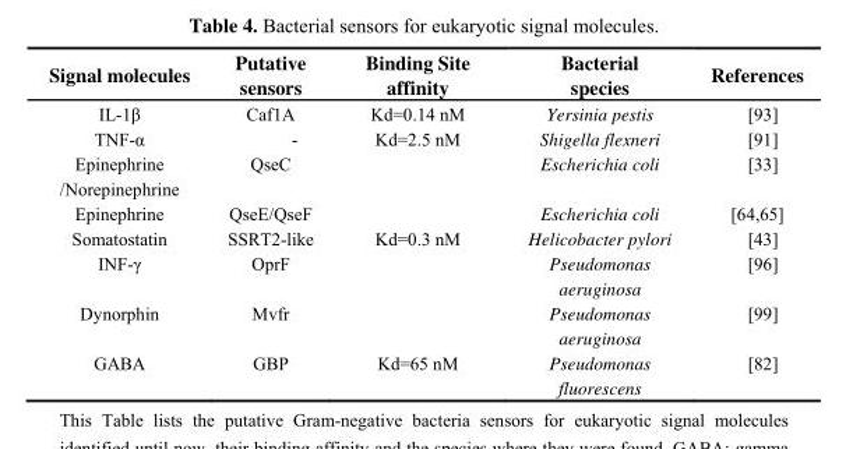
<table><thead><tr><td>Signal molecules</td><td>Putative sensors</td><td>Binding Site affinity</td><td>Bacterial species</td><td>References</td></tr></thead><tbody><tr><td>IL-1β</td><td>Caf1A</td><td>Kd=0.14 nM</td><td>Yersinia pestis</td><td>[93]</td></tr><tr><td>TNF-α</td><td>-</td><td>Kd=2.5 nM</td><td>Shigella flexneri</td><td>[91]</td></tr><tr><td>Epinephrine /Norepinephrine</td><td>QseC</td><td></td><td>Escherichia coli</td><td>[33]</td></tr><tr><td>Epinephrine</td><td>QseE/QseF</td><td></td><td>Escherichia coli</td><td>[64,65]</td></tr><tr><td>Somatostatin</td><td>SSRT2-like</td><td>Kd=0.3 nM</td><td>Helicobacter pylori</td><td>[43]</td></tr><tr><td>INF-γ</td><td>OprF</td><td></td><td>Pseudomonas aeruginosa</td><td>[96]</td></tr><tr><td>Dynorphin</td><td>Mvfr</td><td></td><td>Pseudomonas aeruginosa</td><td>[99]</td></tr><tr><td>GABA</td><td>GBP</td><td>Kd=65 nM</td><td>Pseudomonas fluorescens</td><td>[82]</td></tr></tbody></table>